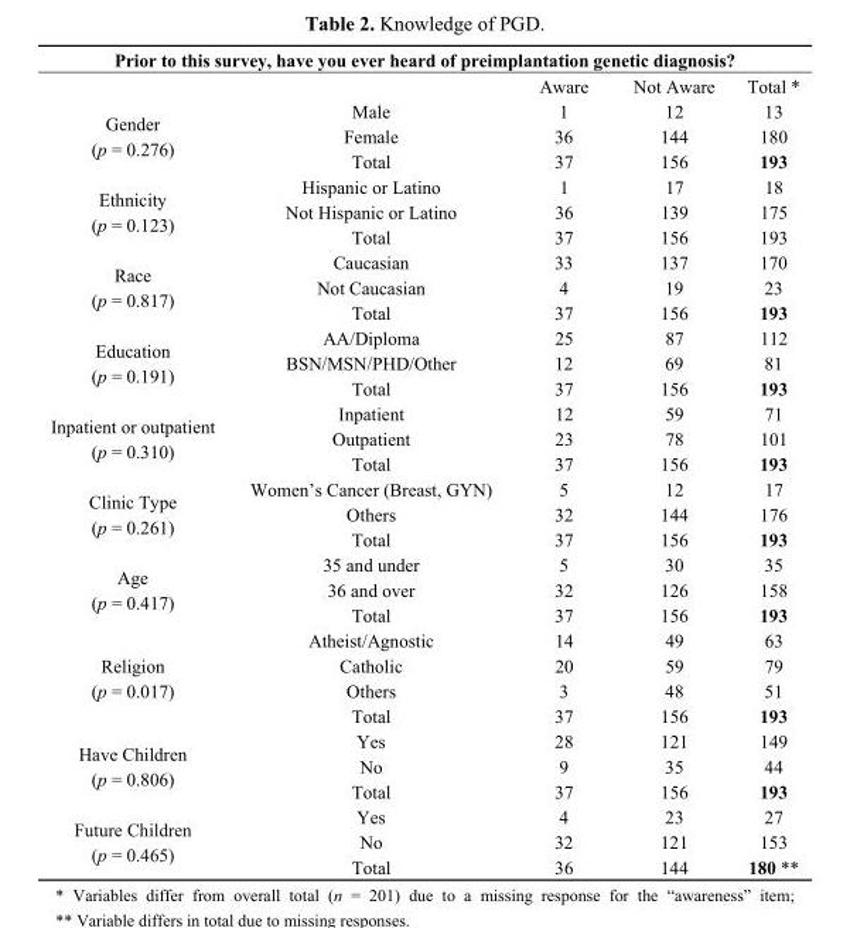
<table><thead><tr><td colspan="5">Prior to this survey, have you ever heard of preimplantation genetic diagnosis?</td></tr><tr><td></td><td></td><td>Aware</td><td>Not Aware</td><td>Total *</td></tr></thead><tbody><tr><td rowspan="3">Gender (p = 0.276)</td><td>Male</td><td>1</td><td>12</td><td>13</td></tr><tr><td>Female</td><td>36</td><td>144</td><td>180</td></tr><tr><td>Total</td><td>37</td><td>156</td><td>193</td></tr><tr><td rowspan="3">Ethnicity (p = 0.123)</td><td>Hispanic or Latino</td><td>1</td><td>17</td><td>18</td></tr><tr><td>Not Hispanic or Latino</td><td>36</td><td>139</td><td>175</td></tr><tr><td>Total</td><td>37</td><td>156</td><td>193</td></tr><tr><td rowspan="3">Race (p = 0.817)</td><td>Caucasian</td><td>33</td><td>137</td><td>170</td></tr><tr><td>Not Caucasian</td><td>4</td><td>19</td><td>23</td></tr><tr><td>Total</td><td>37</td><td>156</td><td>193</td></tr><tr><td rowspan="3">Education (p = 0.191)</td><td>AA/Diploma</td><td>25</td><td>87</td><td>112</td></tr><tr><td>BSN/MSN/PHD/Other</td><td>12</td><td>69</td><td>81</td></tr><tr><td>Total</td><td>37</td><td>156</td><td>193</td></tr><tr><td rowspan="3">Inpatient or outpatient (p = 0.310)</td><td>Inpatient</td><td>12</td><td>59</td><td>71</td></tr><tr><td>Outpatient</td><td>23</td><td>78</td><td>101</td></tr><tr><td>Total</td><td>37</td><td>156</td><td>193</td></tr><tr><td rowspan="3">Clinic Type (p = 0.261)</td><td>Women’s Cancer (Breast, GYN)</td><td>5</td><td>12</td><td>17</td></tr><tr><td>Others</td><td>32</td><td>144</td><td>176</td></tr><tr><td>Total</td><td>37</td><td>156</td><td>193</td></tr><tr><td rowspan="3">Age (p = 0.417)</td><td>35 and under</td><td>5</td><td>30</td><td>35</td></tr><tr><td>36 and over</td><td>32</td><td>126</td><td>158</td></tr><tr><td>Total</td><td>37</td><td>156</td><td>193</td></tr><tr><td rowspan="4">Religion (p = 0.017)</td><td>Atheist/Agnostic</td><td>14</td><td>49</td><td>63</td></tr><tr><td>Catholic</td><td>20</td><td>59</td><td>79</td></tr><tr><td>Others</td><td>3</td><td>48</td><td>51</td></tr><tr><td>Total</td><td>37</td><td>156</td><td>193</td></tr><tr><td rowspan="3">Have Children (p = 0.806)</td><td>Yes</td><td>28</td><td>121</td><td>149</td></tr><tr><td>No</td><td>9</td><td>35</td><td>44</td></tr><tr><td>Total</td><td>37</td><td>156</td><td>193</td></tr><tr><td rowspan="3">Future Children (p = 0.465)</td><td>Yes</td><td>4</td><td>23</td><td>27</td></tr><tr><td>No</td><td>32</td><td>121</td><td>153</td></tr><tr><td>Total</td><td>36</td><td>144</td><td>180 **</td></tr></tbody></table>